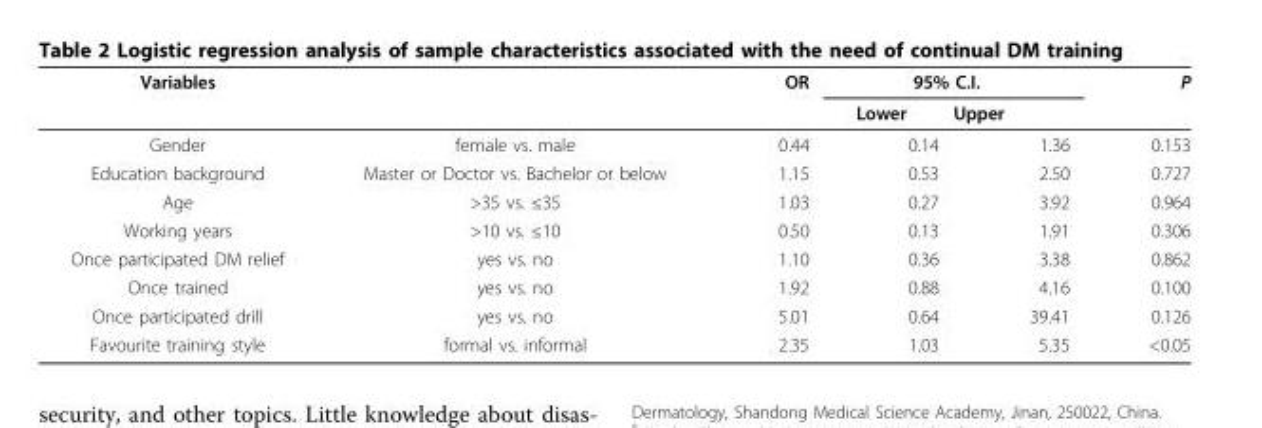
<table><thead><tr><td rowspan="2">Variables</td><td rowspan="2"></td><td rowspan="2">OR</td><td colspan="2">95% C.I.</td><td rowspan="2">P</td></tr><tr><td>Lower</td><td>Upper</td></tr></thead><tbody><tr><td>Gender</td><td>female vs. male</td><td>0.44</td><td>0.14</td><td>1.36</td><td>0.153</td></tr><tr><td>Education background</td><td>Master or Doctor vs. Bachelor or below</td><td>1.15</td><td>0.53</td><td>2.50</td><td>0.727</td></tr><tr><td>Age</td><td>&gt;35 vs. ≤35</td><td>1.03</td><td>0.27</td><td>3.92</td><td>0.964</td></tr><tr><td>Working years</td><td>&gt;10 vs. ≤10</td><td>0.50</td><td>0.13</td><td>1.91</td><td>0.306</td></tr><tr><td>Once participated DM relief</td><td>yes vs. no</td><td>1.10</td><td>0.36</td><td>3.38</td><td>0.862</td></tr><tr><td>Once trained</td><td>yes vs. no</td><td>1.92</td><td>0.88</td><td>4.16</td><td>0.100</td></tr><tr><td>Once participated drill</td><td>yes vs. no</td><td>5.01</td><td>0.64</td><td>39.41</td><td>0.126</td></tr><tr><td>Favourite training style</td><td>formal vs. informal</td><td>2.35</td><td>1.03</td><td>5.35</td><td>&lt;0.05</td></tr></tbody></table>